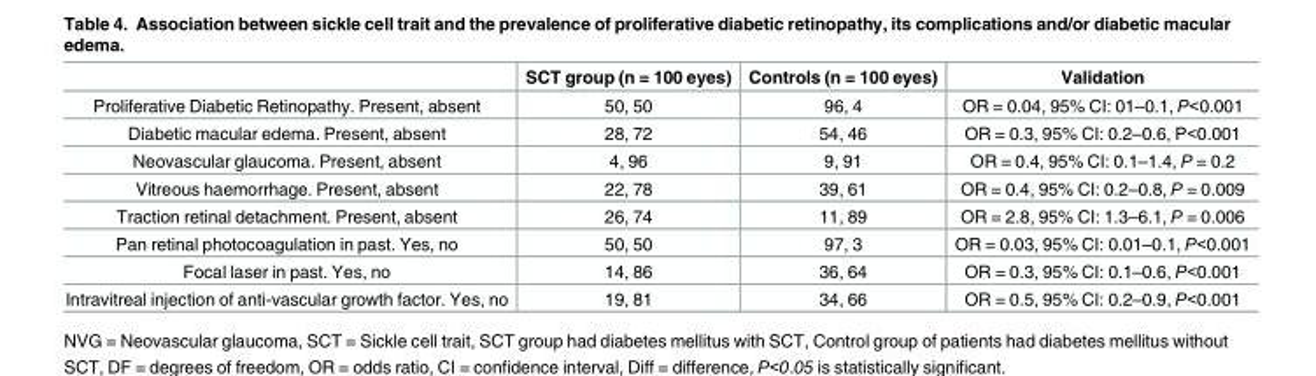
<table><thead><tr><td></td><td>SCT group (n = 100 eyes)</td><td>Controls (n = 100 eyes)</td><td>Validation</td></tr></thead><tbody><tr><td>Proliferative Diabetic Retinopathy. Present, absent</td><td>50, 50</td><td>96, 4</td><td>OR = 0.04, 95% CI: 01–0.1, P&lt;0.001</td></tr><tr><td>Diabetic macular edema. Present, absent</td><td>28, 72</td><td>54, 46</td><td>OR = 0.3, 95% CI: 0.2–0.6, P&lt;0.001</td></tr><tr><td>Neovascular glaucoma. Present, absent</td><td>4, 96</td><td>9, 91</td><td>OR = 0.4, 95% CI: 0.1–1.4, P = 0.2</td></tr><tr><td>Vitreous haemorrhage. Present, absent</td><td>22, 78</td><td>39, 61</td><td>OR = 0.4, 95% CI: 0.2–0.8, P = 0.009</td></tr><tr><td>Traction retinal detachment. Present, absent</td><td>26, 74</td><td>11, 89</td><td>OR = 2.8, 95% CI: 1.3–6.1, P = 0.006</td></tr><tr><td>Pan retinal photocoagulation in past. Yes, no</td><td>50, 50</td><td>97, 3</td><td>OR = 0.03, 95% CI: 0.01–0.1, P&lt;0.001</td></tr><tr><td>Focal laser in past. Yes, no</td><td>14, 86</td><td>36, 64</td><td>OR = 0.3, 95% CI: 0.1–0.6, P&lt;0.001</td></tr><tr><td>Intravitreal injection of anti-vascular growth factor. Yes, no</td><td>19, 81</td><td>34, 66</td><td>OR = 0.5, 95% CI: 0.2–0.9, P&lt;0.001</td></tr></tbody></table>